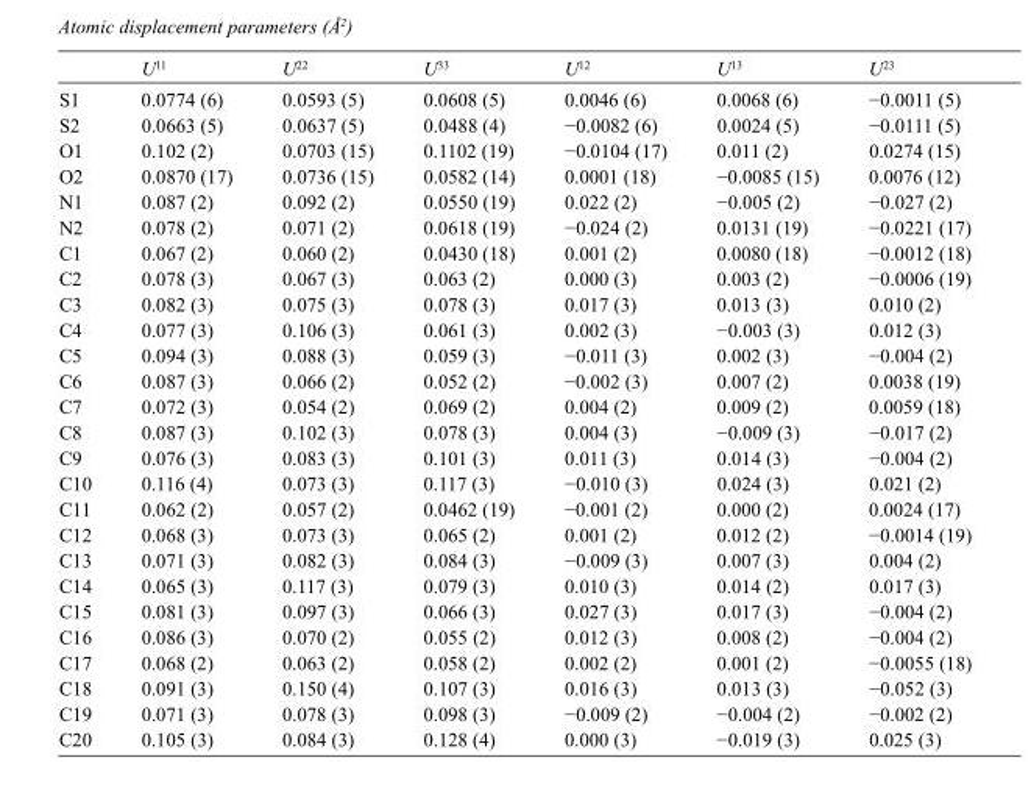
<table><thead><tr><td></td><td>U<sup>11</sup></td><td>U<sup>22</sup></td><td>U<sup>33</sup></td><td>U<sup>12</sup></td><td>U<sup>13</sup></td><td>U<sup>23</sup></td></tr></thead><tbody><tr><td>S1</td><td>0.0774 (6)</td><td>0.0593 (5)</td><td>0.0608 (5)</td><td>0.0046 (6)</td><td>0.0068 (6)</td><td>−0.0011 (5)</td></tr><tr><td>S2</td><td>0.0663 (5)</td><td>0.0637 (5)</td><td>0.0488 (4)</td><td>−0.0082 (6)</td><td>0.0024 (5)</td><td>−0.0111 (5)</td></tr><tr><td>O1</td><td>0.102 (2)</td><td>0.0703 (15)</td><td>0.1102 (19)</td><td>−0.0104 (17)</td><td>0.011 (2)</td><td>0.0274 (15)</td></tr><tr><td>O2</td><td>0.0870 (17)</td><td>0.0736 (15)</td><td>0.0582 (14)</td><td>0.0001 (18)</td><td>−0.0085 (15)</td><td>0.0076 (12)</td></tr><tr><td>N1</td><td>0.087 (2)</td><td>0.092 (2)</td><td>0.0550 (19)</td><td>0.022 (2)</td><td>−0.005 (2)</td><td>−0.027 (2)</td></tr><tr><td>N2</td><td>0.078 (2)</td><td>0.071 (2)</td><td>0.0618 (19)</td><td>−0.024 (2)</td><td>0.0131 (19)</td><td>−0.0221 (17)</td></tr><tr><td>C1</td><td>0.067 (2)</td><td>0.060 (2)</td><td>0.0430 (18)</td><td>0.001 (2)</td><td>0.0080 (18)</td><td>−0.0012 (18)</td></tr><tr><td>C2</td><td>0.078 (3)</td><td>0.067 (3)</td><td>0.063 (2)</td><td>0.000 (3)</td><td>0.003 (2)</td><td>−0.0006 (19)</td></tr><tr><td>C3</td><td>0.082 (3)</td><td>0.075 (3)</td><td>0.078 (3)</td><td>0.017 (3)</td><td>0.013 (3)</td><td>0.010 (2)</td></tr><tr><td>C4</td><td>0.077 (3)</td><td>0.106 (3)</td><td>0.061 (3)</td><td>0.002 (3)</td><td>−0.003 (3)</td><td>0.012 (3)</td></tr><tr><td>C5</td><td>0.094 (3)</td><td>0.088 (3)</td><td>0.059 (3)</td><td>−0.011 (3)</td><td>0.002 (3)</td><td>−0.004 (2)</td></tr><tr><td>C6</td><td>0.087 (3)</td><td>0.066 (2)</td><td>0.052 (2)</td><td>−0.002 (3)</td><td>0.007 (2)</td><td>0.0038 (19)</td></tr><tr><td>C7</td><td>0.072 (3)</td><td>0.054 (2)</td><td>0.069 (2)</td><td>0.004 (2)</td><td>0.009 (2)</td><td>0.0059 (18)</td></tr><tr><td>C8</td><td>0.087 (3)</td><td>0.102 (3)</td><td>0.078 (3)</td><td>0.004 (3)</td><td>−0.009 (3)</td><td>−0.017 (2)</td></tr><tr><td>C9</td><td>0.076 (3)</td><td>0.083 (3)</td><td>0.101 (3)</td><td>0.011 (3)</td><td>0.014 (3)</td><td>−0.004 (2)</td></tr><tr><td>C10</td><td>0.116 (4)</td><td>0.073 (3)</td><td>0.117 (3)</td><td>−0.010 (3)</td><td>0.024 (3)</td><td>0.021 (2)</td></tr><tr><td>C11</td><td>0.062 (2)</td><td>0.057 (2)</td><td>0.0462 (19)</td><td>−0.001 (2)</td><td>0.000 (2)</td><td>0.0024 (17)</td></tr><tr><td>C12</td><td>0.068 (3)</td><td>0.073 (3)</td><td>0.065 (2)</td><td>0.001 (2)</td><td>0.012 (2)</td><td>−0.0014 (19)</td></tr><tr><td>C13</td><td>0.071 (3)</td><td>0.082 (3)</td><td>0.084 (3)</td><td>−0.009 (3)</td><td>0.007 (3)</td><td>0.004 (2)</td></tr><tr><td>C14</td><td>0.065 (3)</td><td>0.117 (3)</td><td>0.079 (3)</td><td>0.010 (3)</td><td>0.014 (2)</td><td>0.017 (3)</td></tr><tr><td>C15</td><td>0.081 (3)</td><td>0.097 (3)</td><td>0.066 (3)</td><td>0.027 (3)</td><td>0.017 (3)</td><td>−0.004 (2)</td></tr><tr><td>C16</td><td>0.086 (3)</td><td>0.070 (2)</td><td>0.055 (2)</td><td>0.012 (3)</td><td>0.008 (2)</td><td>−0.004 (2)</td></tr><tr><td>C17</td><td>0.068 (2)</td><td>0.063 (2)</td><td>0.058 (2)</td><td>0.002 (2)</td><td>0.001 (2)</td><td>−0.0055 (18)</td></tr><tr><td>C18</td><td>0.091 (3)</td><td>0.150 (4)</td><td>0.107 (3)</td><td>0.016 (3)</td><td>0.013 (3)</td><td>−0.052 (3)</td></tr><tr><td>C19</td><td>0.071 (3)</td><td>0.078 (3)</td><td>0.098 (3)</td><td>−0.009 (2)</td><td>−0.004 (2)</td><td>−0.002 (2)</td></tr><tr><td>C20</td><td>0.105 (3)</td><td>0.084 (3)</td><td>0.128 (4)</td><td>0.000 (3)</td><td>−0.019 (3)</td><td>0.025 (3)</td></tr></tbody></table>